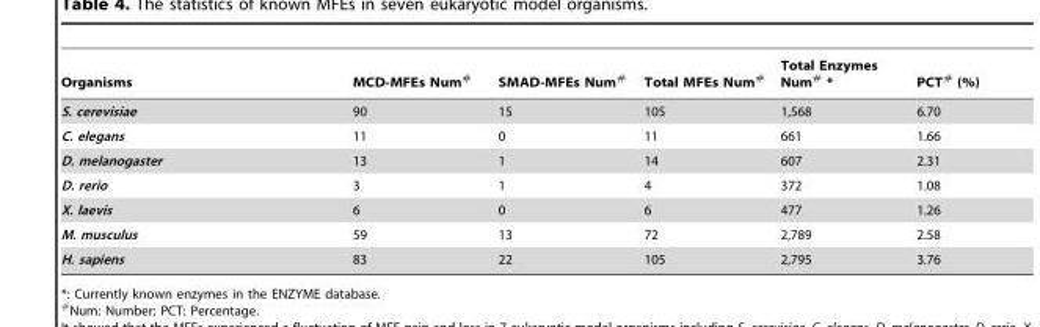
<table><thead><tr><td>Organisms</td><td>MCD-MFEs Num#</td><td>SMAD-MFEs Num#</td><td>Total MFEs Num#</td><td>Total Enzymes Num# *</td><td>PCT# (%)</td></tr></thead><tbody><tr><td>S. cerevisiae</td><td>90</td><td>15</td><td>105</td><td>1,568</td><td>6.70</td></tr><tr><td>C. elegans</td><td>11</td><td>0</td><td>11</td><td>661</td><td>1.66</td></tr><tr><td>D. melanogaster</td><td>13</td><td>1</td><td>14</td><td>607</td><td>2.31</td></tr><tr><td>D. rerio</td><td>3</td><td>1</td><td>4</td><td>372</td><td>1.08</td></tr><tr><td>X. laevis</td><td>6</td><td>0</td><td>6</td><td>477</td><td>1.26</td></tr><tr><td>M. musculus</td><td>59</td><td>13</td><td>72</td><td>2,789</td><td>2.58</td></tr><tr><td>H. sapiens</td><td>83</td><td>22</td><td>105</td><td>2,795</td><td>3.76</td></tr></tbody></table>